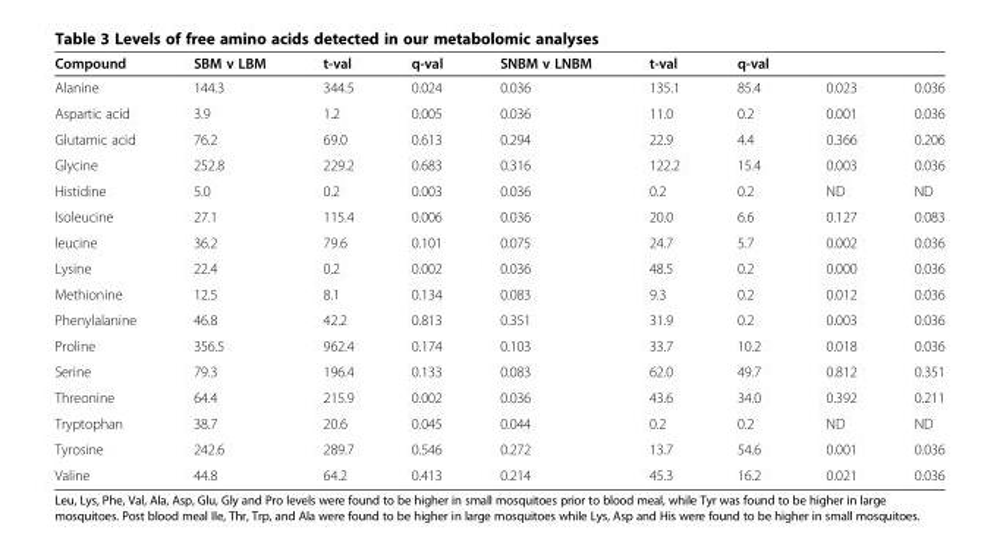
<table><thead><tr><td>Compound</td><td>SBM v LBM</td><td>t-val</td><td>q-val</td><td>SNBM v LNBM</td><td>t-val</td><td>q-val</td><td></td><td></td></tr></thead><tbody><tr><td>Alanine</td><td>144.3</td><td>344.5</td><td>0.024</td><td>0.036</td><td>135.1</td><td>85.4</td><td>0.023</td><td>0.036</td></tr><tr><td>Aspartic acid</td><td>3.9</td><td>1.2</td><td>0.005</td><td>0.036</td><td>11.0</td><td>0.2</td><td>0.001</td><td>0.036</td></tr><tr><td>Glutamic acid</td><td>76.2</td><td>69.0</td><td>0.613</td><td>0.294</td><td>22.9</td><td>4.4</td><td>0.366</td><td>0.206</td></tr><tr><td>Glycine</td><td>252.8</td><td>229.2</td><td>0.683</td><td>0.316</td><td>122.2</td><td>15.4</td><td>0.003</td><td>0.036</td></tr><tr><td>Histidine</td><td>5.0</td><td>0.2</td><td>0.003</td><td>0.036</td><td>0.2</td><td>0.2</td><td>ND</td><td>ND</td></tr><tr><td>Isoleucine</td><td>27.1</td><td>115.4</td><td>0.006</td><td>0.036</td><td>20.0</td><td>6.6</td><td>0.127</td><td>0.083</td></tr><tr><td>leucine</td><td>36.2</td><td>79.6</td><td>0.101</td><td>0.075</td><td>24.7</td><td>5.7</td><td>0.002</td><td>0.036</td></tr><tr><td>Lysine</td><td>22.4</td><td>0.2</td><td>0.002</td><td>0.036</td><td>48.5</td><td>0.2</td><td>0.000</td><td>0.036</td></tr><tr><td>Methionine</td><td>12.5</td><td>8.1</td><td>0.134</td><td>0.083</td><td>9.3</td><td>0.2</td><td>0.012</td><td>0.036</td></tr><tr><td>Phenylalanine</td><td>46.8</td><td>42.2</td><td>0.813</td><td>0.351</td><td>31.9</td><td>0.2</td><td>0.003</td><td>0.036</td></tr><tr><td>Proline</td><td>356.5</td><td>962.4</td><td>0.174</td><td>0.103</td><td>33.7</td><td>10.2</td><td>0.018</td><td>0.036</td></tr><tr><td>Serine</td><td>79.3</td><td>196.4</td><td>0.133</td><td>0.083</td><td>62.0</td><td>49.7</td><td>0.812</td><td>0.351</td></tr><tr><td>Threonine</td><td>64.4</td><td>215.9</td><td>0.002</td><td>0.036</td><td>43.6</td><td>34.0</td><td>0.392</td><td>0.211</td></tr><tr><td>Tryptophan</td><td>38.7</td><td>20.6</td><td>0.045</td><td>0.044</td><td>0.2</td><td>0.2</td><td>ND</td><td>ND</td></tr><tr><td>Tyrosine</td><td>242.6</td><td>289.7</td><td>0.546</td><td>0.272</td><td>13.7</td><td>54.6</td><td>0.001</td><td>0.036</td></tr><tr><td>Valine</td><td>44.8</td><td>64.2</td><td>0.413</td><td>0.214</td><td>45.3</td><td>16.2</td><td>0.021</td><td>0.036</td></tr></tbody></table>